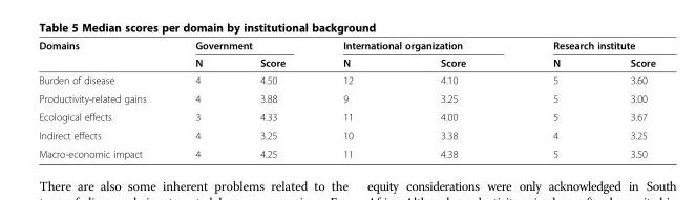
<table><thead><tr><td rowspan="2">Domains</td><td colspan="2">Government</td><td colspan="2">International organization</td><td colspan="2">Research institute</td></tr><tr><td>N</td><td>Score</td><td>N</td><td>Score</td><td>N</td><td>Score</td></tr></thead><tbody><tr><td>Burden of disease</td><td>4</td><td>4.50</td><td>12</td><td>4.10</td><td>5</td><td>3.60</td></tr><tr><td>Productivity-related gains</td><td>4</td><td>3.88</td><td>9</td><td>3.25</td><td>5</td><td>3.00</td></tr><tr><td>Ecological effects</td><td>3</td><td>4.33</td><td>11</td><td>4.00</td><td>5</td><td>3.67</td></tr><tr><td>Indirect effects</td><td>4</td><td>3.25</td><td>10</td><td>3.38</td><td>4</td><td>3.25</td></tr><tr><td>Macro-economic impact</td><td>4</td><td>4.25</td><td>11</td><td>4.38</td><td>5</td><td>3.50</td></tr></tbody></table>